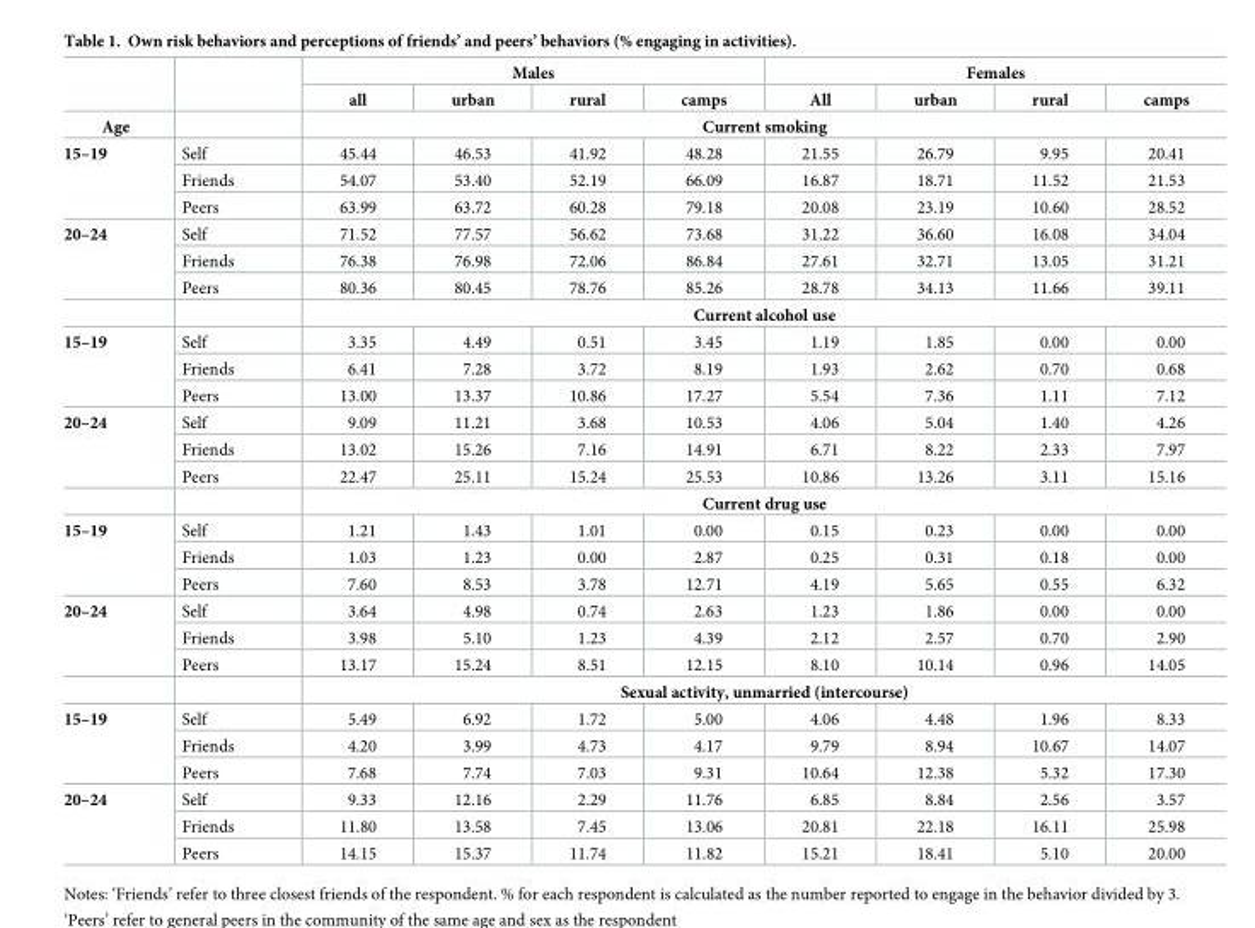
<table><thead><tr><td rowspan="2"></td><td rowspan="2"></td><td colspan="4">Males</td><td colspan="4">Females</td></tr><tr><td>all</td><td>urban</td><td>rural</td><td>camps</td><td>All</td><td>urban</td><td>rural</td><td>camps</td></tr></thead><tbody><tr><td>Age</td><td></td><td colspan="8">Current smoking</td></tr><tr><td rowspan="3">15–19</td><td>Self</td><td>45.44</td><td>46.53</td><td>41.92</td><td>48.28</td><td>21.55</td><td>26.79</td><td>9.95</td><td>20.41</td></tr><tr><td>Friends</td><td>54.07</td><td>53.40</td><td>52.19</td><td>66.09</td><td>16.87</td><td>18.71</td><td>11.52</td><td>21.53</td></tr><tr><td>Peers</td><td>63.99</td><td>63.72</td><td>60.28</td><td>79.18</td><td>20.08</td><td>23.19</td><td>10.60</td><td>28.52</td></tr><tr><td rowspan="4">20–24</td><td>Self</td><td>71.52</td><td>77.57</td><td>56.62</td><td>73.68</td><td>31.22</td><td>36.60</td><td>16.08</td><td>34.04</td></tr><tr><td>Friends</td><td>76.38</td><td>76.98</td><td>72.06</td><td>86.84</td><td>27.61</td><td>32.71</td><td>13.05</td><td>31.21</td></tr><tr><td>Peers</td><td>80.36</td><td>80.45</td><td>78.76</td><td>85.26</td><td>28.78</td><td>34.13</td><td>11.66</td><td>39.11</td></tr><tr><td></td><td colspan="8">Current alcohol use</td></tr><tr><td rowspan="3">15–19</td><td>Self</td><td>3.35</td><td>4.49</td><td>0.51</td><td>3.45</td><td>1.19</td><td>1.85</td><td>0.00</td><td>0.00</td></tr><tr><td>Friends</td><td>6.41</td><td>7.28</td><td>3.72</td><td>8.19</td><td>1.93</td><td>2.62</td><td>0.70</td><td>0.68</td></tr><tr><td>Peers</td><td>13.00</td><td>13.37</td><td>10.86</td><td>17.27</td><td>5.54</td><td>7.36</td><td>1.11</td><td>7.12</td></tr><tr><td rowspan="4">20–24</td><td>Self</td><td>9.09</td><td>11.21</td><td>3.68</td><td>10.53</td><td>4.06</td><td>5.04</td><td>1.40</td><td>4.26</td></tr><tr><td>Friends</td><td>13.02</td><td>15.26</td><td>7.16</td><td>14.91</td><td>6.71</td><td>8.22</td><td>2.33</td><td>7.97</td></tr><tr><td>Peers</td><td>22.47</td><td>25.11</td><td>15.24</td><td>25.53</td><td>10.86</td><td>13.26</td><td>3.11</td><td>15.16</td></tr><tr><td></td><td colspan="8">Current drug use</td></tr><tr><td rowspan="3">15–19</td><td>Self</td><td>1.21</td><td>1.43</td><td>1.01</td><td>0.00</td><td>0.15</td><td>0.23</td><td>0.00</td><td>0.00</td></tr><tr><td>Friends</td><td>1.03</td><td>1.23</td><td>0.00</td><td>2.87</td><td>0.25</td><td>0.31</td><td>0.18</td><td>0.00</td></tr><tr><td>Peers</td><td>7.60</td><td>8.53</td><td>3.78</td><td>12.71</td><td>4.19</td><td>5.65</td><td>0.55</td><td>6.32</td></tr><tr><td rowspan="4">20–24</td><td>Self</td><td>3.64</td><td>4.98</td><td>0.74</td><td>2.63</td><td>1.23</td><td>1.86</td><td>0.00</td><td>0.00</td></tr><tr><td>Friends</td><td>3.98</td><td>5.10</td><td>1.23</td><td>4.39</td><td>2.12</td><td>2.57</td><td>0.70</td><td>2.90</td></tr><tr><td>Peers</td><td>13.17</td><td>15.24</td><td>8.51</td><td>12.15</td><td>8.10</td><td>10.14</td><td>0.96</td><td>14.05</td></tr><tr><td></td><td colspan="8">Sexual activity, unmarried (intercourse)</td></tr><tr><td rowspan="3">15–19</td><td>Self</td><td>5.49</td><td>6.92</td><td>1.72</td><td>5.00</td><td>4.06</td><td>4.48</td><td>1.96</td><td>8.33</td></tr><tr><td>Friends</td><td>4.20</td><td>3.99</td><td>4.73</td><td>4.17</td><td>9.79</td><td>8.94</td><td>10.67</td><td>14.07</td></tr><tr><td>Peers</td><td>7.68</td><td>7.74</td><td>7.03</td><td>9.31</td><td>10.64</td><td>12.38</td><td>5.32</td><td>17.30</td></tr><tr><td rowspan="3">20–24</td><td>Self</td><td>9.33</td><td>12.16</td><td>2.29</td><td>11.76</td><td>6.85</td><td>8.84</td><td>2.56</td><td>3.57</td></tr><tr><td>Friends</td><td>11.80</td><td>13.58</td><td>7.45</td><td>13.06</td><td>20.81</td><td>22.18</td><td>16.11</td><td>25.98</td></tr><tr><td>Peers</td><td>14.15</td><td>15.37</td><td>11.74</td><td>11.82</td><td>15.21</td><td>18.41</td><td>5.10</td><td>20.00</td></tr></tbody></table>